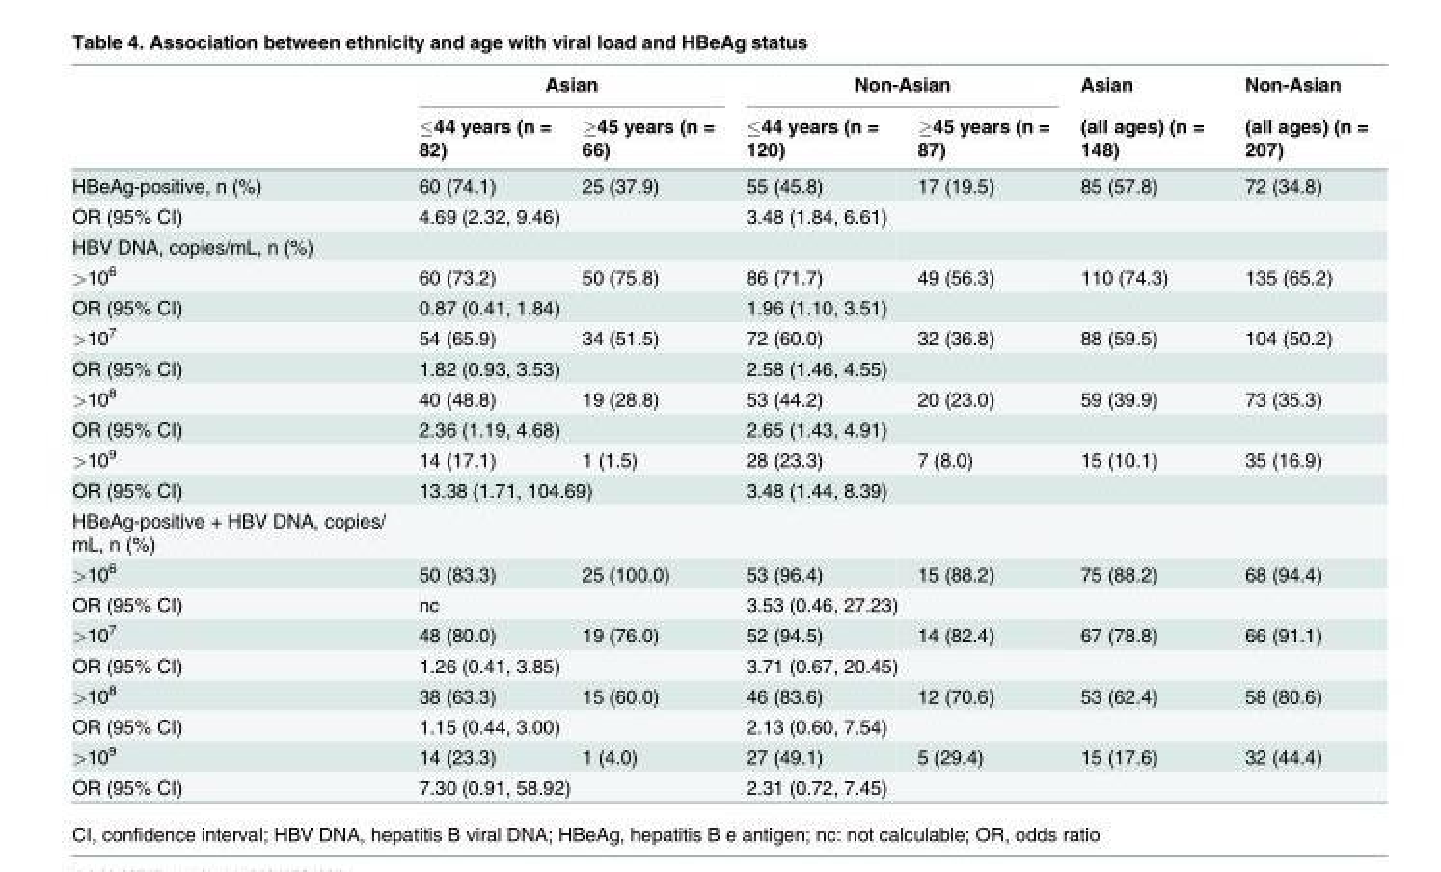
<table><thead><tr><td rowspan="2"></td><td colspan="2">Asian</td><td colspan="2">Non-Asian</td><td rowspan="2">Asian (all ages) (n = 148)</td><td rowspan="2">Non-Asian (all ages) (n = 207)</td></tr><tr><td>≤44 years (n = 82)</td><td>≥45 years (n = 66)</td><td>≤44 years (n = 120)</td><td>≥45 years (n = 87)</td></tr></thead><tbody><tr><td>HBeAg-positive, n (%)</td><td>60 (74.1)</td><td>25 (37.9)</td><td>55 (45.8)</td><td>17 (19.5)</td><td>85 (57.8)</td><td>72 (34.8)</td></tr><tr><td>OR (95% CI)</td><td colspan="2">4.69 (2.32, 9.46)</td><td colspan="2">3.48 (1.84, 6.61)</td><td colspan="2"></td></tr><tr><td colspan="7">HBV DNA, copies/mL, n (%)</td></tr><tr><td>&gt;10<sup>6</sup></td><td>60 (73.2)</td><td>50 (75.8)</td><td>86 (71.7)</td><td>49 (56.3)</td><td>110 (74.3)</td><td>135 (65.2)</td></tr><tr><td>OR (95% CI)</td><td colspan="2">0.87 (0.41, 1.84)</td><td colspan="2">1.96 (1.10, 3.51)</td><td colspan="2"></td></tr><tr><td>&gt;10<sup>7</sup></td><td>54 (65.9)</td><td>34 (51.5)</td><td>72 (60.0)</td><td>32 (36.8)</td><td>88 (59.5)</td><td>104 (50.2)</td></tr><tr><td>OR (95% CI)</td><td colspan="2">1.82 (0.93, 3.53)</td><td colspan="2">2.58 (1.46, 4.55)</td><td colspan="2"></td></tr><tr><td>&gt;10<sup>8</sup></td><td>40 (48.8)</td><td>19 (28.8)</td><td>53 (44.2)</td><td>20 (23.0)</td><td>59 (39.9)</td><td>73 (35.3)</td></tr><tr><td>OR (95% CI)</td><td colspan="2">2.36 (1.19, 4.68)</td><td colspan="2">2.65 (1.43, 4.91)</td><td colspan="2"></td></tr><tr><td>&gt;10<sup>9</sup></td><td>14 (17.1)</td><td>1 (1.5)</td><td>28 (23.3)</td><td>7 (8.0)</td><td>15 (10.1)</td><td>35 (16.9)</td></tr><tr><td>OR (95% CI)</td><td colspan="2">13.38 (1.71, 104.69)</td><td colspan="2">3.48 (1.44, 8.39)</td><td colspan="2"></td></tr><tr><td colspan="7">HBeAg-positive + HBV DNA, copies/ mL, n (%)</td></tr><tr><td>&gt;10<sup>6</sup></td><td>50 (83.3)</td><td>25 (100.0)</td><td>53 (96.4)</td><td>15 (88.2)</td><td>75 (88.2)</td><td>68 (94.4)</td></tr><tr><td>OR (95% CI)</td><td colspan="2">nc</td><td colspan="2">3.53 (0.46, 27.23)</td><td colspan="2"></td></tr><tr><td>&gt;10<sup>7</sup></td><td>48 (80.0)</td><td>19 (76.0)</td><td>52 (94.5)</td><td>14 (82.4)</td><td>67 (78.8)</td><td>66 (91.1)</td></tr><tr><td>OR (95% CI)</td><td colspan="2">1.26 (0.41, 3.85)</td><td colspan="2">3.71 (0.67, 20.45)</td><td colspan="2"></td></tr><tr><td>&gt;10<sup>8</sup></td><td>38 (63.3)</td><td>15 (60.0)</td><td>46 (83.6)</td><td>12 (70.6)</td><td>53 (62.4)</td><td>58 (80.6)</td></tr><tr><td>OR (95% CI)</td><td colspan="2">1.15 (0.44, 3.00)</td><td colspan="2">2.13 (0.60, 7.54)</td><td colspan="2"></td></tr><tr><td>&gt;10<sup>9</sup></td><td>14 (23.3)</td><td>1 (4.0)</td><td>27 (49.1)</td><td>5 (29.4)</td><td>15 (17.6)</td><td>32 (44.4)</td></tr><tr><td>OR (95% CI)</td><td colspan="2">7.30 (0.91, 58.92)</td><td colspan="2">2.31 (0.72, 7.45)</td><td colspan="2"></td></tr></tbody></table>